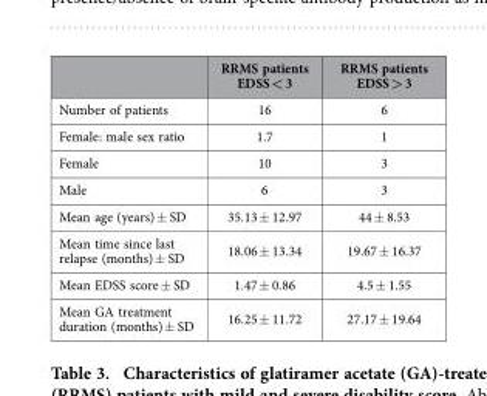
<table><thead><tr><td></td><td>RRMS patients EDSS &lt; 3</td><td>RRMS patients EDSS &gt; 3</td></tr></thead><tbody><tr><td>Number of patients</td><td>16</td><td>6</td></tr><tr><td>Female: male sex ratio</td><td>1.7</td><td>1</td></tr><tr><td>Female</td><td>10</td><td>3</td></tr><tr><td>Male</td><td>6</td><td>3</td></tr><tr><td>Mean age (years) ± SD</td><td>35.13 ± 12.97</td><td>44 ± 8.53</td></tr><tr><td>Mean time since last relapse (months) ± SD</td><td>18.06 ± 13.34</td><td>19.67 ± 16.37</td></tr><tr><td>Mean EDSS score ± SD</td><td>1.47 ± 0.86</td><td>4.5 ± 1.55</td></tr><tr><td>Mean GA treatment duration (months) ± SD</td><td>16.25 ± 11.72</td><td>27.17 ± 19.64</td></tr></tbody></table>